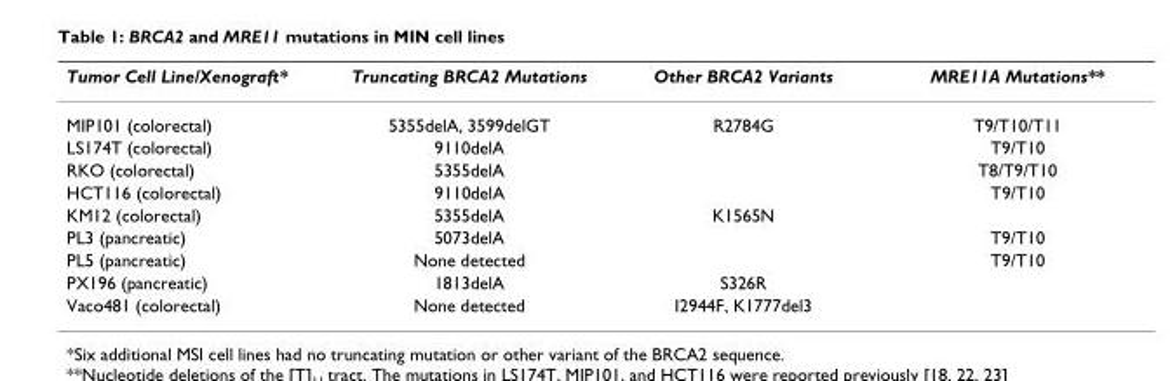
<table><thead><tr><td>Tumor Cell Line/Xenograft*</td><td>Truncating BRCA2 Mutations</td><td>Other BRCA2 Variants</td><td>MRE11A Mutations**</td></tr></thead><tbody><tr><td>MIP101 (colorectal)</td><td>5355delA, 3599delGT</td><td>R2784G</td><td>T9/T10/T11</td></tr><tr><td>LS174T (colorectal)</td><td>9110delA</td><td></td><td>T9/T10</td></tr><tr><td>RKO (colorectal)</td><td>5355delA</td><td></td><td>T8/T9/T10</td></tr><tr><td>HCT116 (colorectal)</td><td>9110delA</td><td></td><td>T9/T10</td></tr><tr><td>KM12 (colorectal)</td><td>5355delA</td><td>K1565N</td><td></td></tr><tr><td>PL3 (pancreatic)</td><td>5073delA</td><td></td><td>T9/T10</td></tr><tr><td>PL5 (pancreatic)</td><td>None detected</td><td></td><td>T9/T10</td></tr><tr><td>PX196 (pancreatic)</td><td>1813delA</td><td>S326R</td><td></td></tr><tr><td>Vaco481 (colorectal)</td><td>None detected</td><td>I2944F, K1777del3</td><td></td></tr></tbody></table>